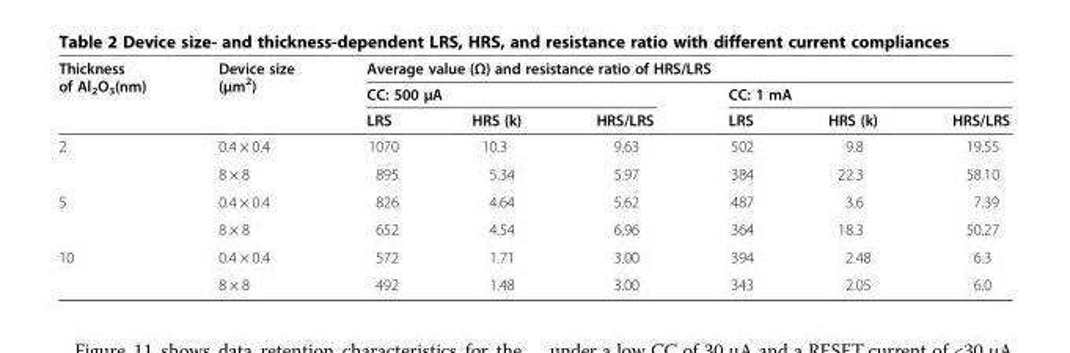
<table><thead><tr><td rowspan="3">Thickness of Al<sub>2</sub>O<sub>3</sub>(nm)</td><td rowspan="3">Device size (μm<sup>2</sup>)</td><td colspan="6">Average value (Ω) and resistance ratio of HRS/LRS</td></tr><tr><td colspan="3">CC: 500 μA</td><td colspan="3">CC: 1 mA</td></tr><tr><td>LRS</td><td>HRS (k)</td><td>HRS/LRS</td><td>LRS</td><td>HRS (k)</td><td>HRS/LRS</td></tr></thead><tbody><tr><td rowspan="2">2</td><td>0.4 × 0.4</td><td>1070</td><td>10.3</td><td>9.63</td><td>502</td><td>9.8</td><td>19.55</td></tr><tr><td>8 × 8</td><td>895</td><td>5.34</td><td>5.97</td><td>384</td><td>22.3</td><td>58.10</td></tr><tr><td rowspan="2">5</td><td>0.4 × 0.4</td><td>826</td><td>4.64</td><td>5.62</td><td>487</td><td>3.6</td><td>7.39</td></tr><tr><td>8 × 8</td><td>652</td><td>4.54</td><td>6.96</td><td>364</td><td>18.3</td><td>50.27</td></tr><tr><td rowspan="2">10</td><td>0.4 × 0.4</td><td>572</td><td>1.71</td><td>3.00</td><td>394</td><td>2.48</td><td>6.3</td></tr><tr><td>8 × 8</td><td>492</td><td>1.48</td><td>3.00</td><td>343</td><td>2.05</td><td>6.0</td></tr></tbody></table>